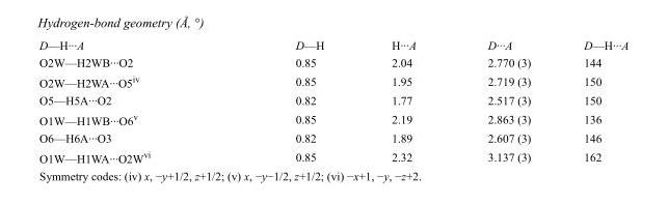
<table><tbody><tr><td>D—H···A</td><td>D—H</td><td>H···A</td><td>D···A</td><td>D—H···A</td></tr><tr><td>O2W—H2WB···O2</td><td>0.85</td><td>2.04</td><td>2.770 (3)</td><td>144</td></tr><tr><td>O2W—H2WA···O5<sup>iv</sup></td><td>0.85</td><td>1.95</td><td>2.719 (3)</td><td>150</td></tr><tr><td>O5—H5A···O2</td><td>0.82</td><td>1.77</td><td>2.517 (3)</td><td>150</td></tr><tr><td>O1W—H1WB···O6<sup>v</sup></td><td>0.85</td><td>2.19</td><td>2.863 (3)</td><td>136</td></tr><tr><td>O6—H6A···O3</td><td>0.82</td><td>1.89</td><td>2.607 (3)</td><td>146</td></tr><tr><td>O1W—H1WA···O2W<sup>vi</sup></td><td>0.85</td><td>2.32</td><td>3.137 (3)</td><td>162</td></tr></tbody></table>